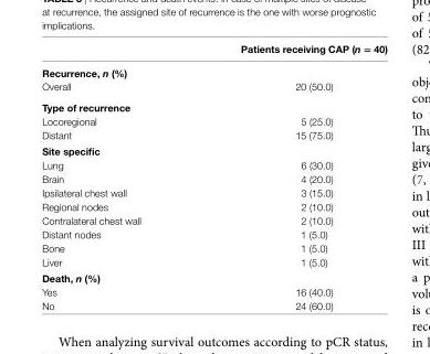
<table><thead><tr><td></td><td>Patients receiving CaP (n = 40)</td></tr></thead><tbody><tr><td colspan="2">recurrence, n (%)</td></tr><tr><td>Overall</td><td>20 (50.0)</td></tr><tr><td colspan="2">Type of recurrence</td></tr><tr><td>Locoregional</td><td>5 (25.0)</td></tr><tr><td>Distant</td><td>15 (75.0)</td></tr><tr><td colspan="2">Site specific</td></tr><tr><td>Lung</td><td>6 (30.0)</td></tr><tr><td>Brain</td><td>4 (20.0)</td></tr><tr><td>Ipsilateral chest wall</td><td>3 (15.0)</td></tr><tr><td>Regional nodes</td><td>2 (10.0)</td></tr><tr><td>Contralateral chest wall</td><td>2 (10.0)</td></tr><tr><td>Distant nodes</td><td>1 (5.0)</td></tr><tr><td>Bone</td><td>1 (5.0)</td></tr><tr><td>Liver</td><td>1 (5.0)</td></tr><tr><td colspan="2">Death, n (%)</td></tr><tr><td>Yes</td><td>16 (40.0)</td></tr><tr><td>No</td><td>24 (60.0)</td></tr></tbody></table>